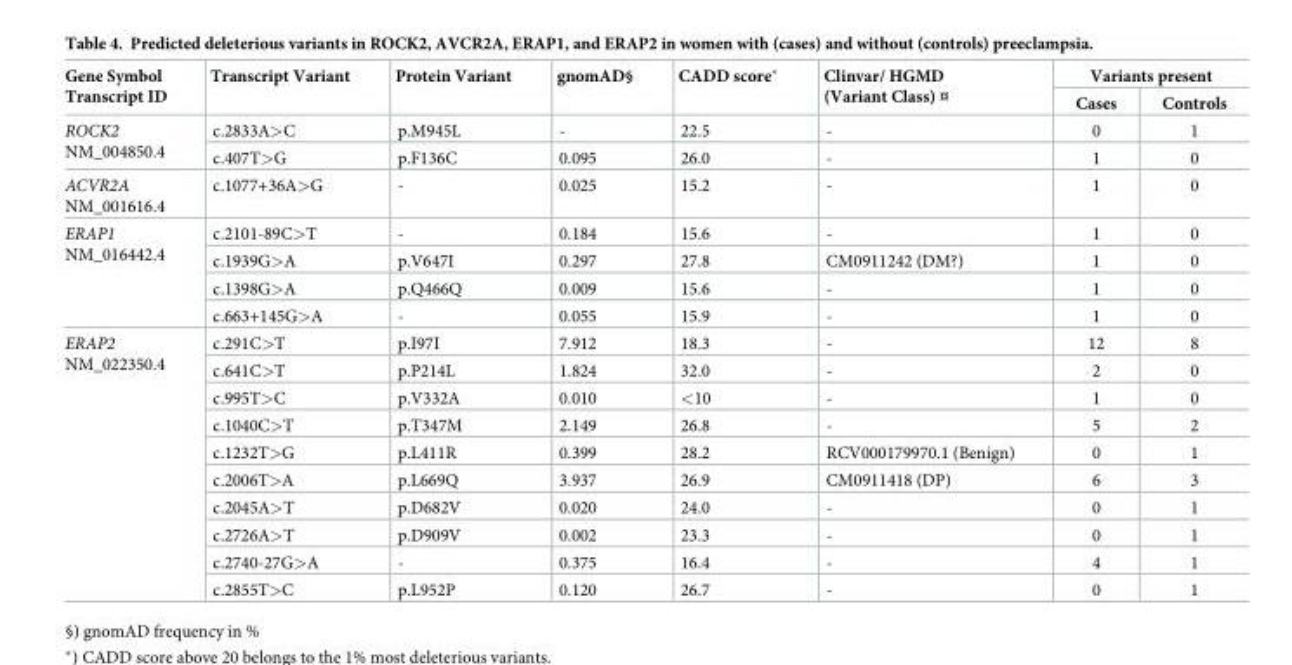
<table><thead><tr><td rowspan="2">Gene Symbol Transcript ID</td><td rowspan="2">Transcript Variant</td><td rowspan="2">Protein Variant</td><td rowspan="2">gnomAD§</td><td rowspan="2">CADD score*</td><td rowspan="2">Clinvar/ HGMD (Variant Class) ¤</td><td colspan="2">Variants present</td></tr><tr><td>Cases</td><td>Controls</td></tr></thead><tbody><tr><td rowspan="2">ROCK2 NM_004850.4</td><td>c.2833A&gt;C</td><td>p.M945L</td><td>-</td><td>22.5</td><td>-</td><td>0</td><td>1</td></tr><tr><td>c.407T&gt;G</td><td>p.F136C</td><td>0.095</td><td>26.0</td><td>-</td><td>1</td><td>0</td></tr><tr><td>ACVR2A NM_001616.4</td><td>c.1077+36A&gt;G</td><td>-</td><td>0.025</td><td>15.2</td><td>-</td><td>1</td><td>0</td></tr><tr><td rowspan="4">ERAP1 NM_016442.4</td><td>c.2101-89C&gt;T</td><td>-</td><td>0.184</td><td>15.6</td><td>-</td><td>1</td><td>0</td></tr><tr><td>c.1939G&gt;A</td><td>p.V647I</td><td>0.297</td><td>27.8</td><td>CM0911242 (DM?)</td><td>1</td><td>0</td></tr><tr><td>c.1398G&gt;A</td><td>p.Q466Q</td><td>0.009</td><td>15.6</td><td>-</td><td>1</td><td>0</td></tr><tr><td>c.663+145G&gt;A</td><td>-</td><td>0.055</td><td>15.9</td><td>-</td><td>1</td><td>0</td></tr><tr><td rowspan="10">ERAP2 NM_022350.4</td><td>c.291C&gt;T</td><td>p.I97I</td><td>7.912</td><td>18.3</td><td>-</td><td>12</td><td>8</td></tr><tr><td>c.641C&gt;T</td><td>p.P214L</td><td>1.824</td><td>32.0</td><td>-</td><td>2</td><td>0</td></tr><tr><td>c.995T&gt;C</td><td>p.V332A</td><td>0.010</td><td>&lt;10</td><td>-</td><td>1</td><td>0</td></tr><tr><td>c.1040C&gt;T</td><td>p.T347M</td><td>2.149</td><td>26.8</td><td>-</td><td>5</td><td>2</td></tr><tr><td>c.1232T&gt;G</td><td>p.L411R</td><td>0.399</td><td>28.2</td><td>RCV000179970.1 (Benign)</td><td>0</td><td>1</td></tr><tr><td>c.2006T&gt;A</td><td>p.L669Q</td><td>3.937</td><td>26.9</td><td>CM0911418 (DP)</td><td>6</td><td>3</td></tr><tr><td>c.2045A&gt;T</td><td>p.D682V</td><td>0.020</td><td>24.0</td><td>-</td><td>0</td><td>1</td></tr><tr><td>c.2726A&gt;T</td><td>p.D909V</td><td>0.002</td><td>23.3</td><td>-</td><td>0</td><td>1</td></tr><tr><td>c.2740-27G&gt;A</td><td>-</td><td>0.375</td><td>16.4</td><td>-</td><td>4</td><td>1</td></tr><tr><td>c.2855T&gt;C</td><td>p.L952P</td><td>0.120</td><td>26.7</td><td>-</td><td>0</td><td>1</td></tr></tbody></table>